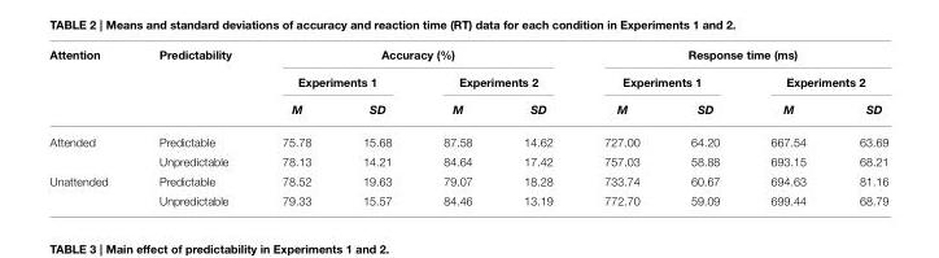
<table><thead><tr><td rowspan="3">Attention</td><td rowspan="3">Predictability</td><td colspan="4">Accuracy (%)</td><td colspan="4">Response time (ms)</td></tr><tr><td colspan="2">Experiments 1</td><td colspan="2">Experiments 2</td><td colspan="2">Experiments 1</td><td colspan="2">Experiments 2</td></tr><tr><td>M</td><td>SD</td><td>M</td><td>SD</td><td>M</td><td>SD</td><td>M</td><td>SD</td></tr></thead><tbody><tr><td rowspan="2">Attended</td><td>Predictable</td><td>75.78</td><td>15.68</td><td>87.58</td><td>14.62</td><td>727.00</td><td>64.20</td><td>667.54</td><td>63.69</td></tr><tr><td>Unpredictable</td><td>78.13</td><td>14.21</td><td>84.64</td><td>17.42</td><td>757.03</td><td>58.88</td><td>693.15</td><td>68.21</td></tr><tr><td rowspan="2">Unattended</td><td>Predictable</td><td>78.52</td><td>19.63</td><td>79.07</td><td>18.28</td><td>733.74</td><td>60.67</td><td>694.63</td><td>81.16</td></tr><tr><td>Unpredictable</td><td>79.33</td><td>15.57</td><td>84.46</td><td>13.19</td><td>772.70</td><td>59.09</td><td>699.44</td><td>68.79</td></tr></tbody></table>